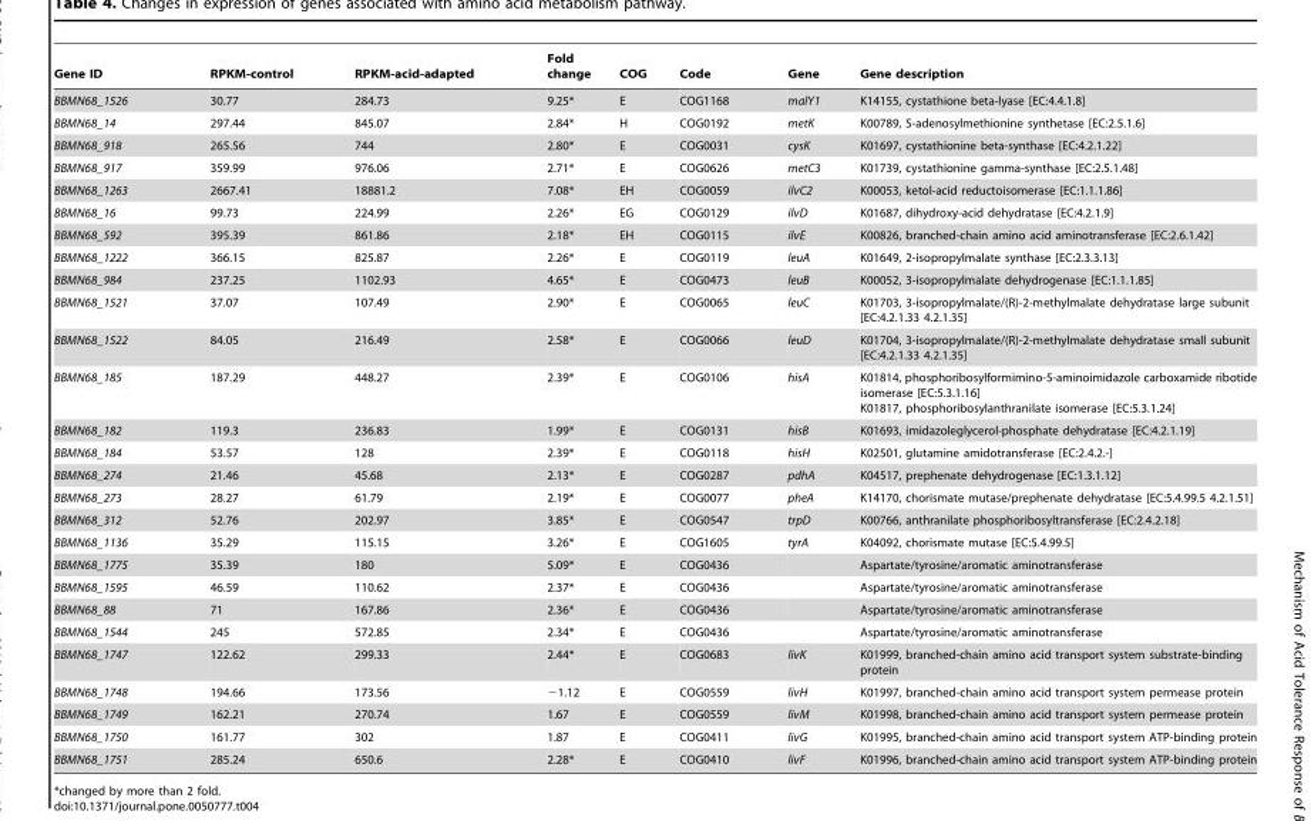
<table><thead><tr><td>Gene ID</td><td>RPKM-control</td><td>RPKM-acid-adapted</td><td>Fold change</td><td>COG</td><td>Code</td><td>Gene</td><td>Gene description</td></tr></thead><tbody><tr><td>BBMN68_1526</td><td>30.77</td><td>284.73</td><td>9.25*</td><td>E</td><td>COG1168</td><td>malY1</td><td>K14155, cystathione beta-lyase [EC:4.4.1.8]</td></tr><tr><td>BBMN68_14</td><td>297.44</td><td>845.07</td><td>2.84*</td><td>H</td><td>COG0192</td><td>metK</td><td>K00789, S-adenosylmethionine synthetase [EC:2.5.1.6]</td></tr><tr><td>BBMN68_918</td><td>265.56</td><td>744</td><td>2.80*</td><td>E</td><td>COG0031</td><td>cysK</td><td>K01697, cystathionine beta-synthase [EC:4.2.1.22]</td></tr><tr><td>BBMN68_917</td><td>359.99</td><td>976.06</td><td>2.71*</td><td>E</td><td>COG0626</td><td>metC3</td><td>K01739, cystathionine gamma-synthase [EC:2.5.1.48]</td></tr><tr><td>BBMN68_1263</td><td>2667.41</td><td>18881.2</td><td>7.08*</td><td>EH</td><td>COG0059</td><td>ilvC2</td><td>K00053, ketol-acid reductoisomerase [EC:1.1.1.86]</td></tr><tr><td>BBMN68_16</td><td>99.73</td><td>224.99</td><td>2.26*</td><td>EG</td><td>COG0129</td><td>ilvD</td><td>K01687, dihydroxy-acid dehydratase [EC:4.2.1.9]</td></tr><tr><td>BBMN68_592</td><td>395.39</td><td>861.86</td><td>2.18*</td><td>EH</td><td>COG0115</td><td>ilvE</td><td>K00826, branched-chain amino acid aminotransferase [EC:2.6.1.42]</td></tr><tr><td>BBMN68_1222</td><td>366.15</td><td>825.87</td><td>2.26*</td><td>E</td><td>COG0119</td><td>leuA</td><td>K01649, 2-isopropylmalate synthase [EC:2.3.3.13]</td></tr><tr><td>BBMN68_984</td><td>237.25</td><td>1102.93</td><td>4.65*</td><td>E</td><td>COG0473</td><td>leuB</td><td>K00052, 3-isopropylmalate dehydrogenase [EC:1.1.1.85]</td></tr><tr><td>BBMN68_1521</td><td>37.07</td><td>107.49</td><td>2.90*</td><td>E</td><td>COG0065</td><td>leuC</td><td>K01703, 3-isopropylmalate/(R)-2-methylmalate dehydratase large subunit [EC:4.2.1.33 4.2.1.35]</td></tr><tr><td>BBMN68_1522</td><td>84.05</td><td>216.49</td><td>2.58*</td><td>E</td><td>COG0066</td><td>leuD</td><td>K01704, 3-isopropylmalate/(R)-2-methylmalate dehydratase small subunit [EC:4.2.1.33 4.2.1.35]</td></tr><tr><td>BBMN68_185</td><td>187.29</td><td>448.27</td><td>2.39*</td><td>E</td><td>COG0106</td><td>hisA</td><td>K01814, phosphoribosylformimino-5-aminoimidazole carboxamide ribotide isomerase [EC:5.3.1.16] K01817, phosphoribosylanthranilate isomerase [EC:5.3.1.24]</td></tr><tr><td>BBMN68_182</td><td>119.3</td><td>236.83</td><td>1.99*</td><td>E</td><td>COG0131</td><td>hisB</td><td>K01693, imidazoleglycerol-phosphate dehydratase [EC:4.2.1.19]</td></tr><tr><td>BBMN68_184</td><td>53.57</td><td>128</td><td>2.39*</td><td>E</td><td>COG0118</td><td>hisH</td><td>K02501, glutamine amidotransferase [EC:2.4.2.-]</td></tr><tr><td>BBMN68_274</td><td>21.46</td><td>45.68</td><td>2.13*</td><td>E</td><td>COG0287</td><td>pdhA</td><td>K04517, prephenate dehydrogenase [EC:1.3.1.12]</td></tr><tr><td>BBMN68_273</td><td>28.27</td><td>61.79</td><td>2.19*</td><td>E</td><td>COG0077</td><td>pheA</td><td>K14170, chorismate mutase/prephenate dehydratase [EC:5.4.99.5 4.2.1.51]</td></tr><tr><td>BBMN68_312</td><td>52.76</td><td>202.97</td><td>3.85*</td><td>E</td><td>COG0547</td><td>trpD</td><td>K00766, anthranilate phosphoribosyltransferase [EC:2.4.2.18]</td></tr><tr><td>BBMN68_1136</td><td>35.29</td><td>115.15</td><td>3.26*</td><td>E</td><td>COG1605</td><td>tyrA</td><td>K04092, chorismate mutase [EC:5.4.99.5]</td></tr><tr><td>BBMN68_1775</td><td>35.39</td><td>180</td><td>5.09*</td><td>E</td><td>COG0436</td><td></td><td>Aspartate/tyrosine/aromatic aminotransferase</td></tr><tr><td>BBMN68_1595</td><td>46.59</td><td>110.62</td><td>2.37*</td><td>E</td><td>COG0436</td><td></td><td>Aspartate/tyrosine/aromatic aminotransferase</td></tr><tr><td>BBMN68_88</td><td>71</td><td>167.86</td><td>2.36*</td><td>E</td><td>COG0436</td><td></td><td>Aspartate/tyrosine/aromatic aminotransferase</td></tr><tr><td>BBMN68_1544</td><td>245</td><td>572.85</td><td>2.34*</td><td>E</td><td>COG0436</td><td></td><td>Aspartate/tyrosine/aromatic aminotransferase</td></tr><tr><td>BBMN68_1747</td><td>122.62</td><td>299.33</td><td>2.44*</td><td>E</td><td>COG0683</td><td>livK</td><td>K01999, branched-chain amino acid transport system substrate-binding protein</td></tr><tr><td>BBMN68_1748</td><td>194.66</td><td>173.56</td><td>−1.12</td><td>E</td><td>COG0559</td><td>livH</td><td>K01997, branched-chain amino acid transport system permease protein</td></tr><tr><td>BBMN68_1749</td><td>162.21</td><td>270.74</td><td>1.67</td><td>E</td><td>COG0559</td><td>livM</td><td>K01998, branched-chain amino acid transport system permease protein</td></tr><tr><td>BBMN68_1750</td><td>161.77</td><td>302</td><td>1.87</td><td>E</td><td>COG0411</td><td>livG</td><td>K01995, branched-chain amino acid transport system ATP-binding protein</td></tr><tr><td>BBMN68_1751</td><td>285.24</td><td>650.6</td><td>2.28*</td><td>E</td><td>COG0410</td><td>livF</td><td>K01996, branched-chain amino acid transport system ATP-binding protein</td></tr></tbody></table>